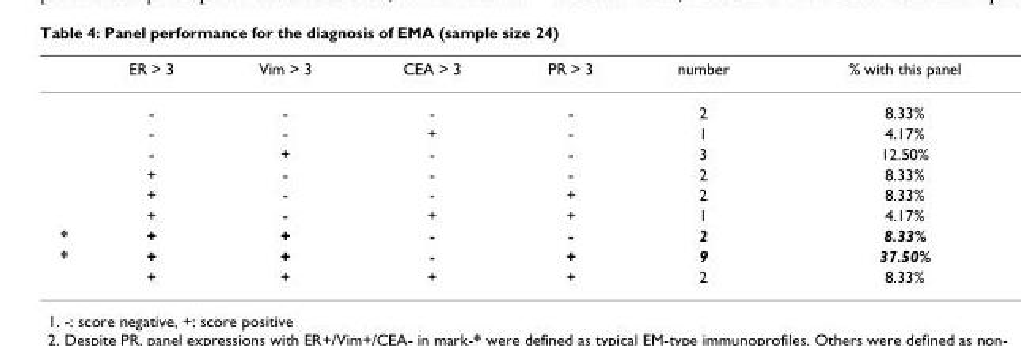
<table><thead><tr><td></td><td>ER &gt; 3</td><td>Vim &gt; 3</td><td>CEA &gt; 3</td><td>PR &gt; 3</td><td>number</td><td>% with this panel</td></tr></thead><tbody><tr><td></td><td>-</td><td>-</td><td>-</td><td>-</td><td>2</td><td>8.33%</td></tr><tr><td></td><td>-</td><td>-</td><td>+</td><td>-</td><td>1</td><td>4.17%</td></tr><tr><td></td><td>-</td><td>+</td><td>-</td><td>-</td><td>3</td><td>12.50%</td></tr><tr><td></td><td>+</td><td>-</td><td>-</td><td>-</td><td>2</td><td>8.33%</td></tr><tr><td></td><td>+</td><td>-</td><td>-</td><td>+</td><td>2</td><td>8.33%</td></tr><tr><td></td><td>+</td><td>-</td><td>+</td><td>+</td><td>1</td><td>4.17%</td></tr><tr><td>*</td><td>+</td><td>+</td><td>-</td><td>-</td><td>2</td><td>8.33%</td></tr><tr><td rowspan="2">*</td><td>+</td><td>+</td><td>-</td><td>+</td><td>9</td><td>37.50%</td></tr><tr><td>+</td><td>+</td><td>+</td><td>+</td><td>2</td><td>8.33%</td></tr></tbody></table>